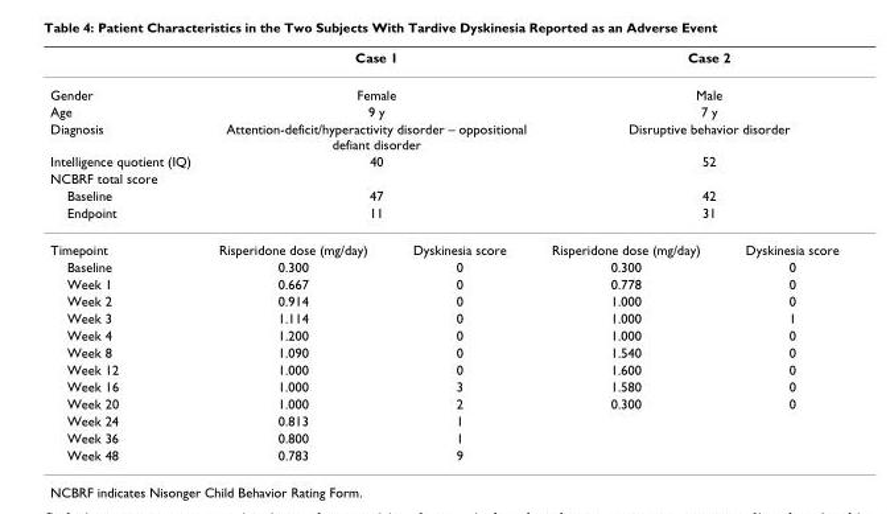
<table><thead><tr><td></td><td colspan="2">Case 1</td><td colspan="2">Case 2</td></tr></thead><tbody><tr><td>Gender</td><td colspan="2">Female</td><td colspan="2">Male</td></tr><tr><td>Age</td><td colspan="2">9 y</td><td colspan="2">7 y</td></tr><tr><td>Diagnosis</td><td colspan="2">Attention-deficit/hyperactivity disorder – oppositional defiant disorder</td><td colspan="2">Disruptive behavior disorder</td></tr><tr><td>Intelligence quotient (IQ)</td><td colspan="2">40</td><td colspan="2">52</td></tr><tr><td colspan="5">NCBRF total score</td></tr><tr><td>Baseline</td><td colspan="2">47</td><td colspan="2">42</td></tr><tr><td>Endpoint</td><td colspan="2">11</td><td colspan="2">31</td></tr><tr><td>Timepoint</td><td>Risperidone dose (mg/day)</td><td>Dyskinesia score</td><td>Risperidone dose (mg/day)</td><td>Dyskinesia score</td></tr><tr><td>Baseline</td><td>0.300</td><td>0</td><td>0.300</td><td>0</td></tr><tr><td>Week 1</td><td>0.667</td><td>0</td><td>0.778</td><td>0</td></tr><tr><td>Week 2</td><td>0.914</td><td>0</td><td>1.000</td><td>0</td></tr><tr><td>Week 3</td><td>1.114</td><td>0</td><td>1.000</td><td>1</td></tr><tr><td>Week 4</td><td>1.200</td><td>0</td><td>1.000</td><td>0</td></tr><tr><td>Week 8</td><td>1.090</td><td>0</td><td>1.540</td><td>0</td></tr><tr><td>Week 12</td><td>1.000</td><td>0</td><td>1.600</td><td>0</td></tr><tr><td>Week 16</td><td>1.000</td><td>3</td><td>1.580</td><td>0</td></tr><tr><td>Week 20</td><td>1.000</td><td>2</td><td>0.300</td><td>0</td></tr><tr><td>Week 24</td><td>0.813</td><td>1</td><td></td><td></td></tr><tr><td>Week 36</td><td>0.800</td><td>1</td><td></td><td></td></tr><tr><td>Week 48</td><td>0.783</td><td>9</td><td></td><td></td></tr></tbody></table>